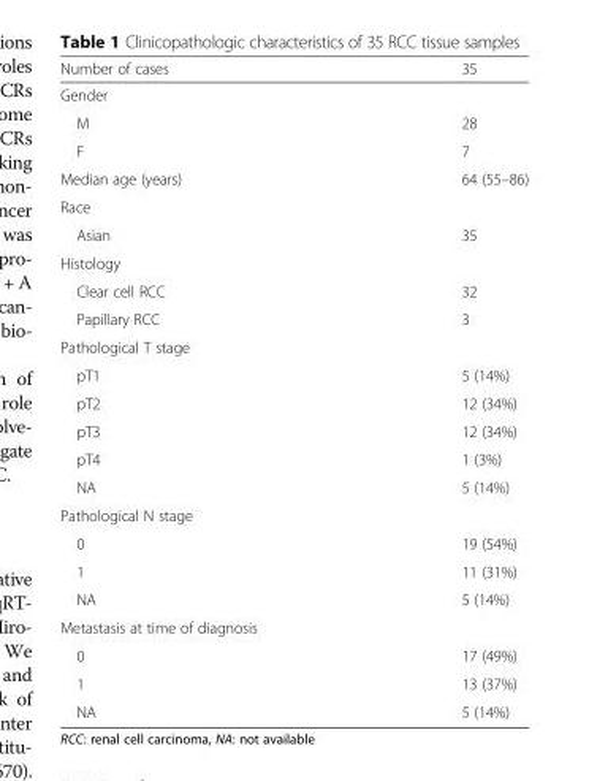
<table><thead><tr><td>Number of cases</td><td>35</td></tr></thead><tbody><tr><td colspan="2">Gender</td></tr><tr><td>M</td><td>28</td></tr><tr><td>F</td><td>7</td></tr><tr><td>Median age (years)</td><td>64 (55–86)</td></tr><tr><td colspan="2">Race</td></tr><tr><td>Asian</td><td>35</td></tr><tr><td colspan="2">Histology</td></tr><tr><td>Clear cell RCC</td><td>32</td></tr><tr><td>Papillary RCC</td><td>3</td></tr><tr><td colspan="2">Pathological T stage</td></tr><tr><td>pT1</td><td>5 (14%)</td></tr><tr><td>pT2</td><td>12 (34%)</td></tr><tr><td>pT3</td><td>12 (34%)</td></tr><tr><td>pT4</td><td>1 (3%)</td></tr><tr><td>NA</td><td>5 (14%)</td></tr><tr><td colspan="2">Pathological N stage</td></tr><tr><td>0</td><td>19 (54%)</td></tr><tr><td>1</td><td>11 (31%)</td></tr><tr><td>NA</td><td>5 (14%)</td></tr><tr><td colspan="2">Metastasis at time of diagnosis</td></tr><tr><td>0</td><td>17 (49%)</td></tr><tr><td>1</td><td>13 (37%)</td></tr><tr><td>NA</td><td>5 (14%)</td></tr></tbody></table>